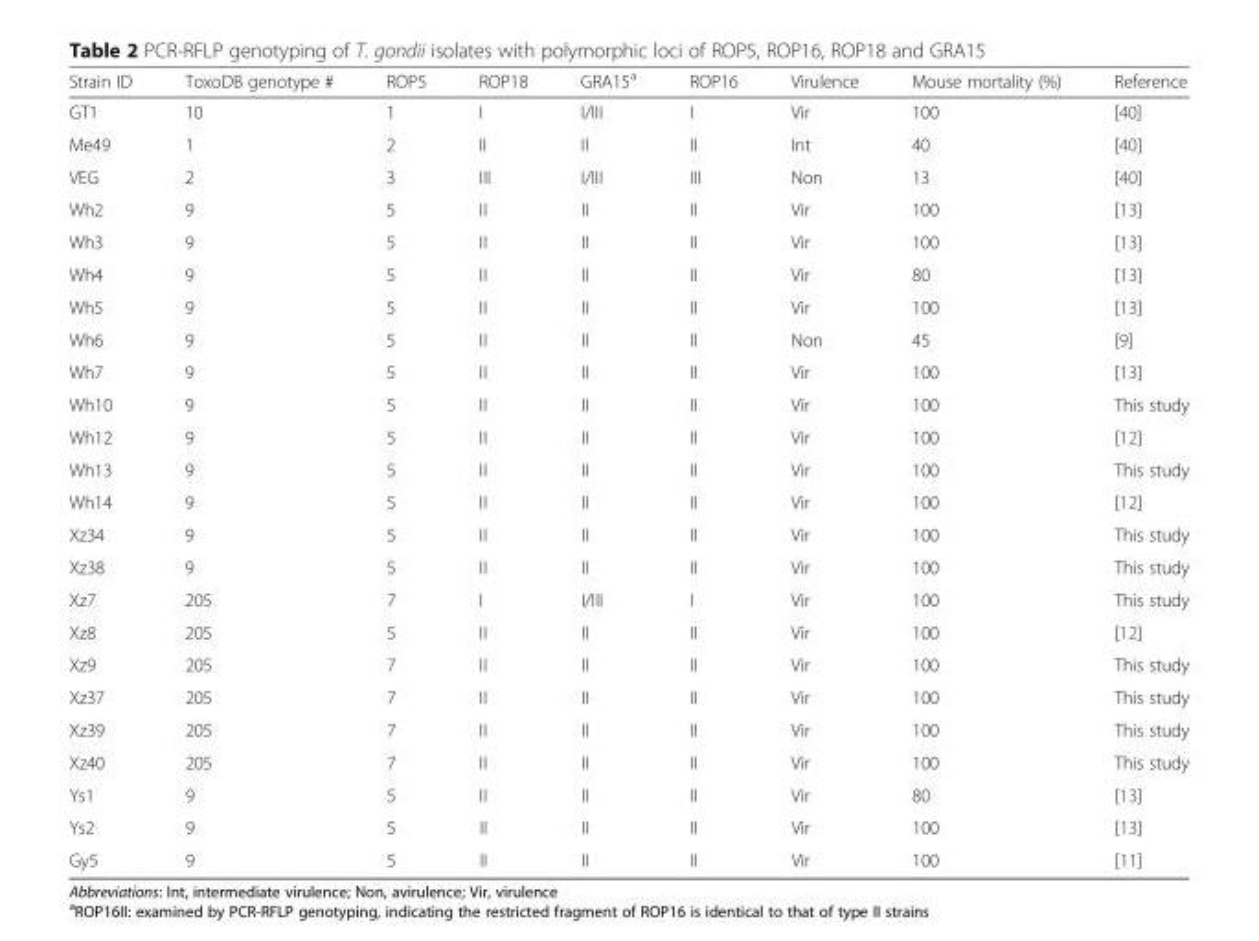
<table><thead><tr><td>Strain ID</td><td>ToxoDB genotype #</td><td>ROP5</td><td>ROP18</td><td>GRA15<sup>a</sup></td><td>ROP16</td><td>Virulence</td><td>Mouse mortality (%)</td><td>Reference</td></tr></thead><tbody><tr><td>GT1</td><td>10</td><td>1</td><td>I</td><td>I/III</td><td>I</td><td>Vir</td><td>100</td><td>[40]</td></tr><tr><td>Me49</td><td>1</td><td>2</td><td>II</td><td>II</td><td>II</td><td>Int</td><td>40</td><td>[40]</td></tr><tr><td>VEG</td><td>2</td><td>3</td><td>III</td><td>I/III</td><td>III</td><td>Non</td><td>13</td><td>[40]</td></tr><tr><td>Wh2</td><td>9</td><td>5</td><td>II</td><td>II</td><td>II</td><td>Vir</td><td>100</td><td>[13]</td></tr><tr><td>Wh3</td><td>9</td><td>5</td><td>II</td><td>II</td><td>II</td><td>Vir</td><td>100</td><td>[13]</td></tr><tr><td>Wh4</td><td>9</td><td>5</td><td>II</td><td>II</td><td>II</td><td>Vir</td><td>80</td><td>[13]</td></tr><tr><td>Wh5</td><td>9</td><td>5</td><td>II</td><td>II</td><td>II</td><td>Vir</td><td>100</td><td>[13]</td></tr><tr><td>Wh6</td><td>9</td><td>5</td><td>II</td><td>II</td><td>II</td><td>Non</td><td>45</td><td>[9]</td></tr><tr><td>Wh7</td><td>9</td><td>5</td><td>II</td><td>II</td><td>II</td><td>Vir</td><td>100</td><td>[13]</td></tr><tr><td>Wh10</td><td>9</td><td>5</td><td>II</td><td>II</td><td>II</td><td>Vir</td><td>100</td><td>This study</td></tr><tr><td>Wh12</td><td>9</td><td>5</td><td>II</td><td>II</td><td>II</td><td>Vir</td><td>100</td><td>[12]</td></tr><tr><td>Wh13</td><td>9</td><td>5</td><td>II</td><td>II</td><td>II</td><td>Vir</td><td>100</td><td>This study</td></tr><tr><td>Wh14</td><td>9</td><td>5</td><td>II</td><td>II</td><td>II</td><td>Vir</td><td>100</td><td>[12]</td></tr><tr><td>Xz34</td><td>9</td><td>5</td><td>II</td><td>II</td><td>II</td><td>Vir</td><td>100</td><td>This study</td></tr><tr><td>Xz38</td><td>9</td><td>5</td><td>II</td><td>II</td><td>II</td><td>Vir</td><td>100</td><td>This study</td></tr><tr><td>Xz7</td><td>205</td><td>7</td><td>I</td><td>I/III</td><td>I</td><td>Vir</td><td>100</td><td>This study</td></tr><tr><td>Xz8</td><td>205</td><td>5</td><td>II</td><td>II</td><td>II</td><td>Vir</td><td>100</td><td>[12]</td></tr><tr><td>Xz9</td><td>205</td><td>7</td><td>II</td><td>II</td><td>II</td><td>Vir</td><td>100</td><td>This study</td></tr><tr><td>Xz37</td><td>205</td><td>7</td><td>II</td><td>II</td><td>II</td><td>Vir</td><td>100</td><td>This study</td></tr><tr><td>Xz39</td><td>205</td><td>7</td><td>II</td><td>II</td><td>II</td><td>Vir</td><td>100</td><td>This study</td></tr><tr><td>Xz40</td><td>205</td><td>7</td><td>II</td><td>II</td><td>II</td><td>Vir</td><td>100</td><td>This study</td></tr><tr><td>Ys1</td><td>9</td><td>5</td><td>II</td><td>II</td><td>II</td><td>Vir</td><td>80</td><td>[13]</td></tr><tr><td>Ys2</td><td>9</td><td>5</td><td>II</td><td>II</td><td>II</td><td>Vir</td><td>100</td><td>[13]</td></tr><tr><td>Gy5</td><td>9</td><td>5</td><td>II</td><td>II</td><td>II</td><td>Vir</td><td>100</td><td>[11]</td></tr></tbody></table>